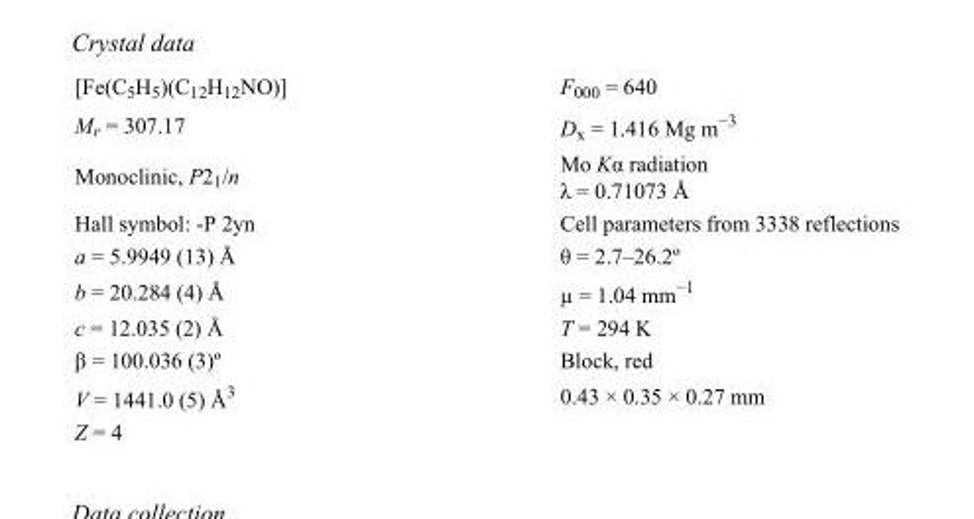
<table><tbody><tr><td>[Fe(C<sub>5</sub>H<sub>5</sub>)(C<sub>12</sub>H<sub>12</sub>NO)]</td><td>F000 = 640</td></tr><tr><td>M<sub>r</sub> = 307.17</td><td>D<sub>x</sub> = 1.416 Mg m<sup>−3</sup></td></tr><tr><td>Monoclinic, P2<sub>1</sub>/n</td><td>Mo Kα radiation λ = 0.71073 Å</td></tr><tr><td>Hall symbol: -P 2yn</td><td>Cell parameters from 3338 reflections</td></tr><tr><td>a = 5.9949 (13) Å</td><td>θ = 2.7–26.2º</td></tr><tr><td>b = 20.284 (4) Å</td><td>µ = 1.04 mm<sup>−1</sup></td></tr><tr><td>c = 12.035 (2) Å</td><td>T = 294 K</td></tr><tr><td>β = 100.036 (3)º</td><td>Block, red</td></tr><tr><td>V = 1441.0 (5) Å<sup>3</sup></td><td>0.43 × 0.35 × 0.27 mm</td></tr><tr><td>Z = 4</td><td></td></tr></tbody></table>